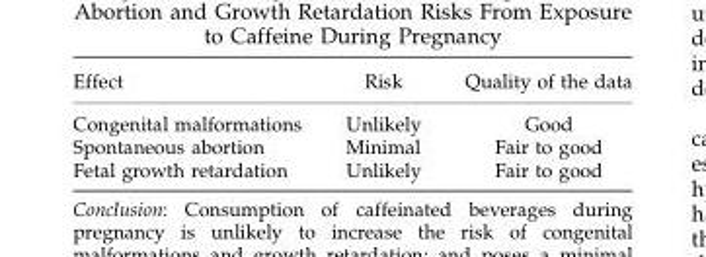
<table><thead><tr><td>Effect</td><td>Risk</td><td>Quality of the data</td></tr></thead><tbody><tr><td>Congenital malformations</td><td>Unlikely</td><td>Good</td></tr><tr><td>Spontaneous abortion</td><td>Minimal</td><td>Fair to good</td></tr><tr><td>Fetal growth retardation</td><td>Unlikely</td><td>Fair to good</td></tr></tbody></table>